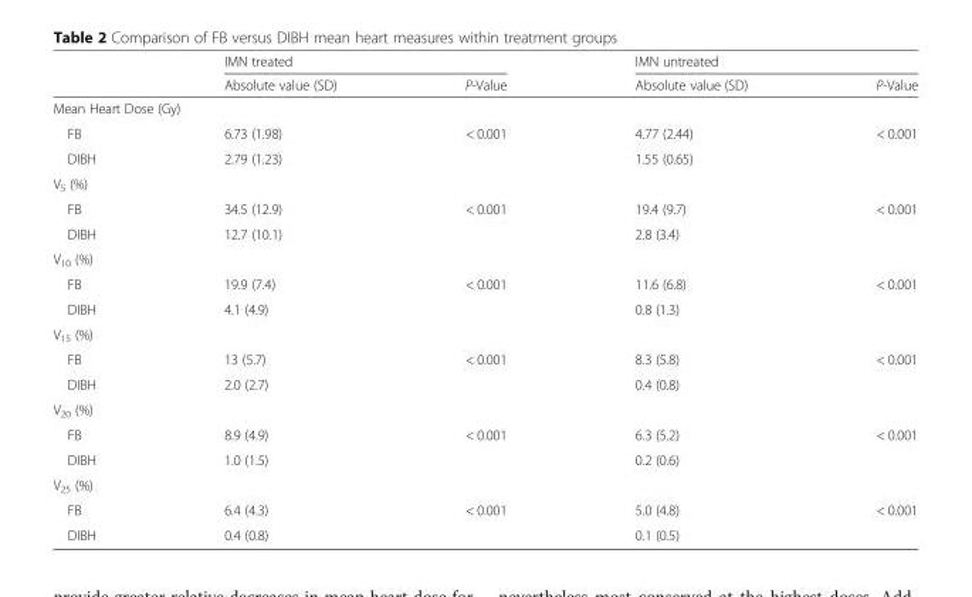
<table><thead><tr><td rowspan="2"></td><td colspan="2">IMN treated</td><td colspan="2">IMN untreated</td></tr><tr><td>Absolute value (SD)</td><td>P-Value</td><td>Absolute value (SD)</td><td>P-Value</td></tr></thead><tbody><tr><td colspan="5">Mean Heart Dose (Gy)</td></tr><tr><td>FB</td><td>6.73 (1.98)</td><td rowspan="2">&lt; 0.001</td><td>4.77 (2.44)</td><td rowspan="2">&lt; 0.001</td></tr><tr><td>DIBH</td><td>2.79 (1.23)</td><td>1.55 (0.65)</td></tr><tr><td colspan="5">V<sub>5</sub> (%)</td></tr><tr><td>FB</td><td>34.5 (12.9)</td><td rowspan="2">&lt; 0.001</td><td>19.4 (9.7)</td><td rowspan="2">&lt; 0.001</td></tr><tr><td>DIBH</td><td>12.7 (10.1)</td><td>2.8 (3.4)</td></tr><tr><td colspan="5">V<sub>10</sub> (%)</td></tr><tr><td>FB</td><td>19.9 (7.4)</td><td rowspan="2">&lt; 0.001</td><td>11.6 (6.8)</td><td rowspan="2">&lt; 0.001</td></tr><tr><td>DIBH</td><td>4.1 (4.9)</td><td>0.8 (1.3)</td></tr><tr><td colspan="5">V<sub>15</sub> (%)</td></tr><tr><td>FB</td><td>13 (5.7)</td><td rowspan="2">&lt; 0.001</td><td>8.3 (5.8)</td><td rowspan="2">&lt; 0.001</td></tr><tr><td>DIBH</td><td>2.0 (2.7)</td><td>0.4 (0.8)</td></tr><tr><td colspan="5">V<sub>20</sub> (%)</td></tr><tr><td>FB</td><td>8.9 (4.9)</td><td rowspan="2">&lt; 0.001</td><td>6.3 (5.2)</td><td rowspan="2">&lt; 0.001</td></tr><tr><td>DIBH</td><td>1.0 (1.5)</td><td>0.2 (0.6)</td></tr><tr><td colspan="5">V<sub>25</sub> (%)</td></tr><tr><td>FB</td><td>6.4 (4.3)</td><td rowspan="2">&lt; 0.001</td><td>5.0 (4.8)</td><td rowspan="2">&lt; 0.001</td></tr><tr><td>DIBH</td><td>0.4 (0.8)</td><td>0.1 (0.5)</td></tr></tbody></table>